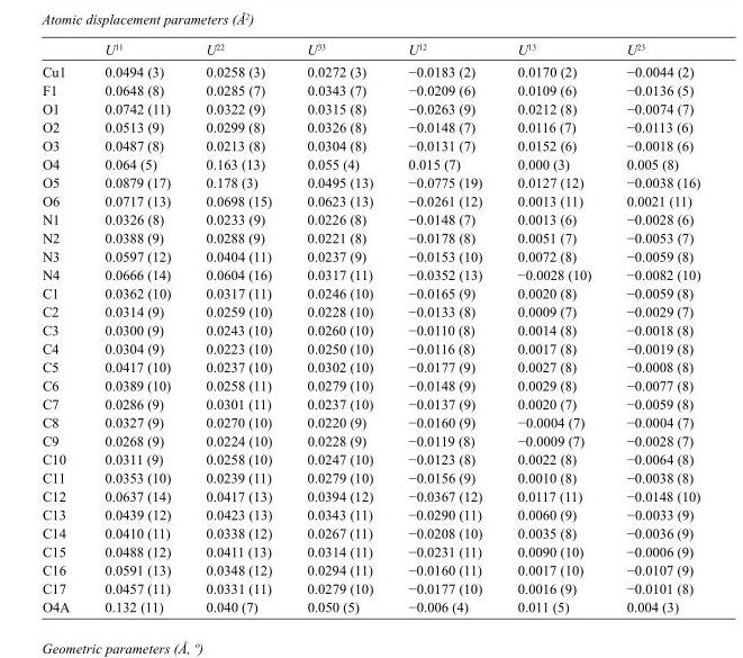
<table><thead><tr><td></td><td>U<sup>11</sup></td><td>U<sup>22</sup></td><td>U<sup>33</sup></td><td>U<sup>12</sup></td><td>U<sup>13</sup></td><td>U<sup>23</sup></td></tr></thead><tbody><tr><td>Cu1</td><td>0.0494 (3)</td><td>0.0258 (3)</td><td>0.0272 (3)</td><td>−0.0183 (2)</td><td>0.0170 (2)</td><td>−0.0044 (2)</td></tr><tr><td>F1</td><td>0.0648 (8)</td><td>0.0285 (7)</td><td>0.0343 (7)</td><td>−0.0209 (6)</td><td>0.0109 (6)</td><td>−0.0136 (5)</td></tr><tr><td>O1</td><td>0.0742 (11)</td><td>0.0322 (9)</td><td>0.0315 (8)</td><td>−0.0263 (9)</td><td>0.0212 (8)</td><td>−0.0074 (7)</td></tr><tr><td>O2</td><td>0.0513 (9)</td><td>0.0299 (8)</td><td>0.0326 (8)</td><td>−0.0148 (7)</td><td>0.0116 (7)</td><td>−0.0113 (6)</td></tr><tr><td>O3</td><td>0.0487 (8)</td><td>0.0213 (8)</td><td>0.0304 (8)</td><td>−0.0131 (7)</td><td>0.0152 (6)</td><td>−0.0018 (6)</td></tr><tr><td>O4</td><td>0.064 (5)</td><td>0.163 (13)</td><td>0.055 (4)</td><td>0.015 (7)</td><td>0.000 (3)</td><td>0.005 (8)</td></tr><tr><td>O5</td><td>0.0879 (17)</td><td>0.178 (3)</td><td>0.0495 (13)</td><td>−0.0775 (19)</td><td>0.0127 (12)</td><td>−0.0038 (16)</td></tr><tr><td>O6</td><td>0.0717 (13)</td><td>0.0698 (15)</td><td>0.0623 (13)</td><td>−0.0261 (12)</td><td>0.0013 (11)</td><td>0.0021 (11)</td></tr><tr><td>N1</td><td>0.0326 (8)</td><td>0.0233 (9)</td><td>0.0226 (8)</td><td>−0.0148 (7)</td><td>0.0013 (6)</td><td>−0.0028 (6)</td></tr><tr><td>N2</td><td>0.0388 (9)</td><td>0.0288 (9)</td><td>0.0221 (8)</td><td>−0.0178 (8)</td><td>0.0051 (7)</td><td>−0.0053 (7)</td></tr><tr><td>N3</td><td>0.0597 (12)</td><td>0.0404 (11)</td><td>0.0237 (9)</td><td>−0.0153 (10)</td><td>0.0072 (8)</td><td>−0.0059 (8)</td></tr><tr><td>N4</td><td>0.0666 (14)</td><td>0.0604 (16)</td><td>0.0317 (11)</td><td>−0.0352 (13)</td><td>−0.0028 (10)</td><td>−0.0082 (10)</td></tr><tr><td>C1</td><td>0.0362 (10)</td><td>0.0317 (11)</td><td>0.0246 (10)</td><td>−0.0165 (9)</td><td>0.0020 (8)</td><td>−0.0059 (8)</td></tr><tr><td>C2</td><td>0.0314 (9)</td><td>0.0259 (10)</td><td>0.0228 (10)</td><td>−0.0133 (8)</td><td>0.0009 (7)</td><td>−0.0029 (7)</td></tr><tr><td>C3</td><td>0.0300 (9)</td><td>0.0243 (10)</td><td>0.0260 (10)</td><td>−0.0110 (8)</td><td>0.0014 (8)</td><td>−0.0018 (8)</td></tr><tr><td>C4</td><td>0.0304 (9)</td><td>0.0223 (10)</td><td>0.0250 (10)</td><td>−0.0116 (8)</td><td>0.0017 (8)</td><td>−0.0019 (8)</td></tr><tr><td>C5</td><td>0.0417 (10)</td><td>0.0237 (10)</td><td>0.0302 (10)</td><td>−0.0177 (9)</td><td>0.0027 (8)</td><td>−0.0008 (8)</td></tr><tr><td>C6</td><td>0.0389 (10)</td><td>0.0258 (11)</td><td>0.0279 (10)</td><td>−0.0148 (9)</td><td>0.0029 (8)</td><td>−0.0077 (8)</td></tr><tr><td>C7</td><td>0.0286 (9)</td><td>0.0301 (11)</td><td>0.0237 (10)</td><td>−0.0137 (9)</td><td>0.0020 (7)</td><td>−0.0059 (8)</td></tr><tr><td>C8</td><td>0.0327 (9)</td><td>0.0270 (10)</td><td>0.0220 (9)</td><td>−0.0160 (9)</td><td>−0.0004 (7)</td><td>−0.0004 (7)</td></tr><tr><td>C9</td><td>0.0268 (9)</td><td>0.0224 (10)</td><td>0.0228 (9)</td><td>−0.0119 (8)</td><td>−0.0009 (7)</td><td>−0.0028 (7)</td></tr><tr><td>C10</td><td>0.0311 (9)</td><td>0.0258 (10)</td><td>0.0247 (10)</td><td>−0.0123 (8)</td><td>0.0022 (8)</td><td>−0.0064 (8)</td></tr><tr><td>C11</td><td>0.0353 (10)</td><td>0.0239 (11)</td><td>0.0279 (10)</td><td>−0.0156 (9)</td><td>0.0010 (8)</td><td>−0.0038 (8)</td></tr><tr><td>C12</td><td>0.0637 (14)</td><td>0.0417 (13)</td><td>0.0394 (12)</td><td>−0.0367 (12)</td><td>0.0117 (11)</td><td>−0.0148 (10)</td></tr><tr><td>C13</td><td>0.0439 (12)</td><td>0.0423 (13)</td><td>0.0343 (11)</td><td>−0.0290 (11)</td><td>0.0060 (9)</td><td>−0.0033 (9)</td></tr><tr><td>C14</td><td>0.0410 (11)</td><td>0.0338 (12)</td><td>0.0267 (11)</td><td>−0.0208 (10)</td><td>0.0035 (8)</td><td>−0.0036 (9)</td></tr><tr><td>C15</td><td>0.0488 (12)</td><td>0.0411 (13)</td><td>0.0314 (11)</td><td>−0.0231 (11)</td><td>0.0090 (10)</td><td>−0.0006 (9)</td></tr><tr><td>C16</td><td>0.0591 (13)</td><td>0.0348 (12)</td><td>0.0294 (11)</td><td>−0.0160 (11)</td><td>0.0017 (10)</td><td>−0.0107 (9)</td></tr><tr><td>C17</td><td>0.0457 (11)</td><td>0.0331 (11)</td><td>0.0279 (10)</td><td>−0.0177 (10)</td><td>0.0016 (9)</td><td>−0.0101 (8)</td></tr><tr><td>O4A</td><td>0.132 (11)</td><td>0.040 (7)</td><td>0.050 (5)</td><td>−0.006 (4)</td><td>0.011 (5)</td><td>0.004 (3)</td></tr></tbody></table>